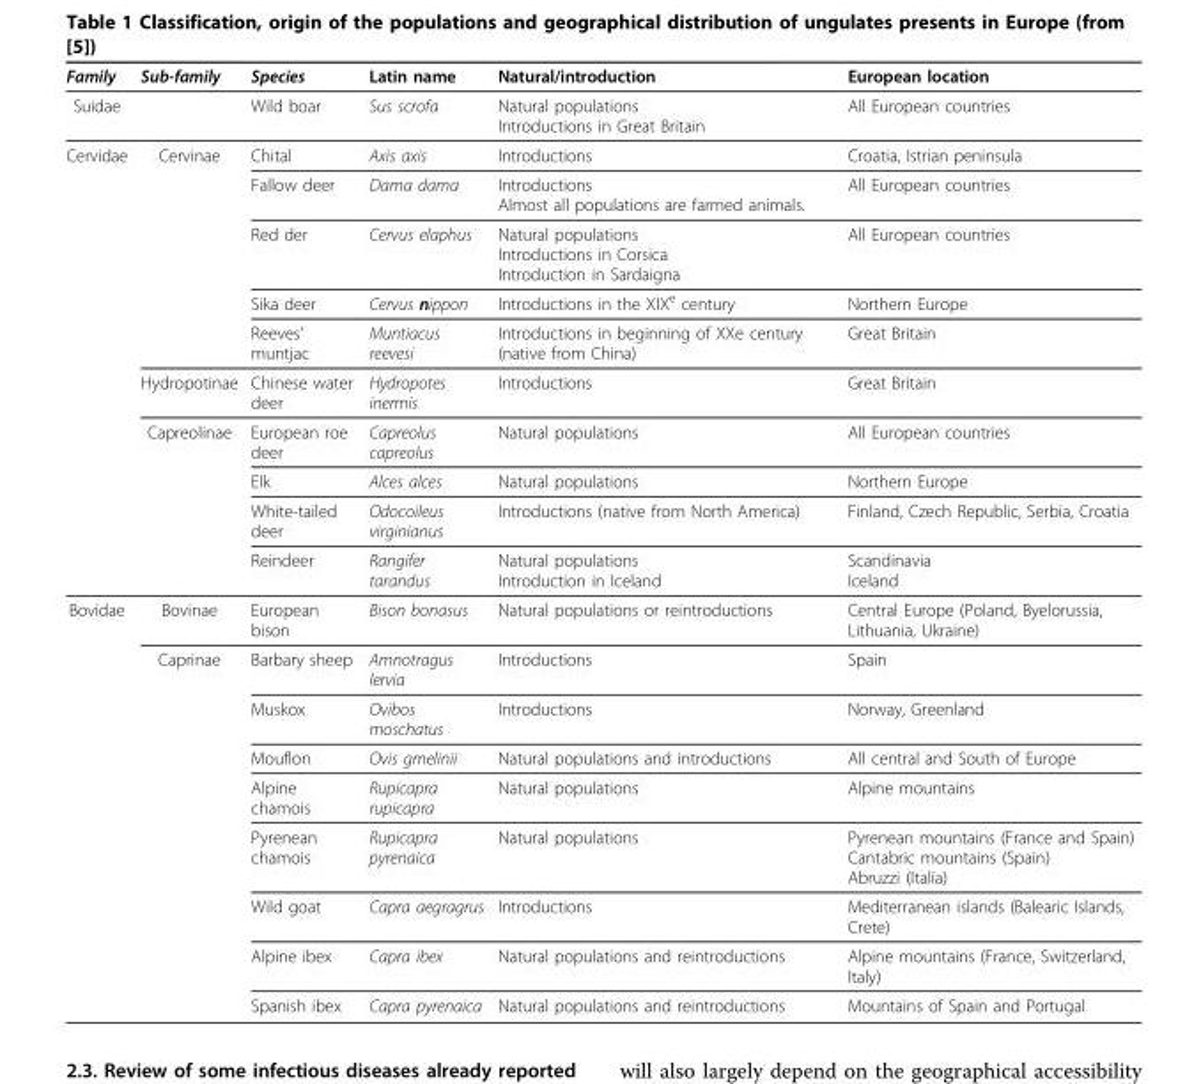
<table><thead><tr><td>Family</td><td>Sub-family</td><td>Species</td><td>Latin name</td><td>Natural/introduction</td><td>European location</td></tr></thead><tbody><tr><td>Suidae</td><td></td><td>Wild boar</td><td>Sus scrofa</td><td>Natural populations Introductions in Great Britain</td><td>All European countries</td></tr><tr><td rowspan="10">Cervidae</td><td>Cervinae</td><td>Chital</td><td>Axis axis</td><td>Introductions</td><td>Croatia, Istrian peninsula</td></tr><tr><td></td><td>Fallow deer</td><td>Dama dama</td><td>Introductions Almost all populations are farmed animals.</td><td>All European countries</td></tr><tr><td></td><td>Red der</td><td>Cervus elaphus</td><td>Natural populations Introductions in Corsica Introduction in Sardaigna</td><td>All European countries</td></tr><tr><td></td><td>Sika deer</td><td>Cervus nippon</td><td>Introductions in the XIX<sup>e</sup> century</td><td>Northern Europe</td></tr><tr><td></td><td>Reeves’ muntjac</td><td>Muntiacus reevesi</td><td>Introductions in beginning of XXe century (native from China)</td><td>Great Britain</td></tr><tr><td>Hydropotinae</td><td>Chinese water deer</td><td>Hydropotes inermis</td><td>Introductions</td><td>Great Britain</td></tr><tr><td>Capreolinae</td><td>European roe deer</td><td>Capreolus capreolus</td><td>Natural populations</td><td>All European countries</td></tr><tr><td></td><td>Elk</td><td>Alces alces</td><td>Natural populations</td><td>Northern Europe</td></tr><tr><td></td><td>White-tailed deer</td><td>Odocoileus virginianus</td><td>Introductions (native from North America)</td><td>Finland, Czech Republic, Serbia, Croatia</td></tr><tr><td></td><td>Reindeer</td><td>Rangifer tarandus</td><td>Natural populations Introduction in Iceland</td><td>Scandinavia Iceland</td></tr><tr><td rowspan="9">Bovidae</td><td>Bovinae</td><td>European bison</td><td>Bison bonasus</td><td>Natural populations or reintroductions</td><td>Central Europe (Poland, Byelorussia, Lithuania, Ukraine)</td></tr><tr><td>Caprinae</td><td>Barbary sheep</td><td>Amnotragus lervia</td><td>Introductions</td><td>Spain</td></tr><tr><td></td><td>Muskox</td><td>Ovibos moschatus</td><td>Introductions</td><td>Norway, Greenland</td></tr><tr><td></td><td>Mouflon</td><td>Ovis gmelinii</td><td>Natural populations and introductions</td><td>All central and South of Europe</td></tr><tr><td></td><td>Alpine chamois</td><td>Rupicapra rupicapra</td><td>Natural populations</td><td>Alpine mountains</td></tr><tr><td></td><td>Pyrenean chamois</td><td>Rupicapra pyrenaica</td><td>Natural populations</td><td>Pyrenean mountains (France and Spain) Cantabric mountains (Spain) Abruzzi (Italia)</td></tr><tr><td></td><td>Wild goat</td><td>Capra aegragrus</td><td>Introductions</td><td>Mediterranean islands (Balearic Islands, Crete)</td></tr><tr><td></td><td>Alpine ibex</td><td>Capra ibex</td><td>Natural populations and reintroductions</td><td>Alpine mountains (France, Switzerland, Italy)</td></tr><tr><td></td><td>Spanish ibex</td><td>Capra pyrenaica</td><td>Natural populations and reintroductions</td><td>Mountains of Spain and Portugal</td></tr></tbody></table>